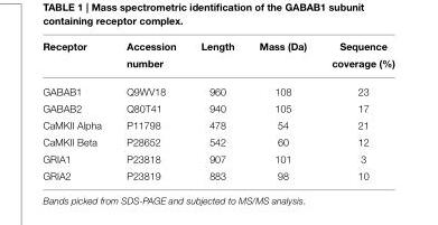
<table><thead><tr><td>Receptor</td><td>Accession number</td><td>Length</td><td>Mass (Da)</td><td>Sequence coverage (%)</td></tr></thead><tbody><tr><td>GABAB1</td><td>Q9WV18</td><td>960</td><td>108</td><td>23</td></tr><tr><td>GABAB2</td><td>Q80T41</td><td>940</td><td>105</td><td>17</td></tr><tr><td>CaMKII Alpha</td><td>P11798</td><td>478</td><td>54</td><td>21</td></tr><tr><td>CaMKII Beta</td><td>P28652</td><td>542</td><td>60</td><td>12</td></tr><tr><td>GRIA1</td><td>P23818</td><td>907</td><td>101</td><td>3</td></tr><tr><td>GRIA2</td><td>P23819</td><td>883</td><td>98</td><td>10</td></tr></tbody></table>